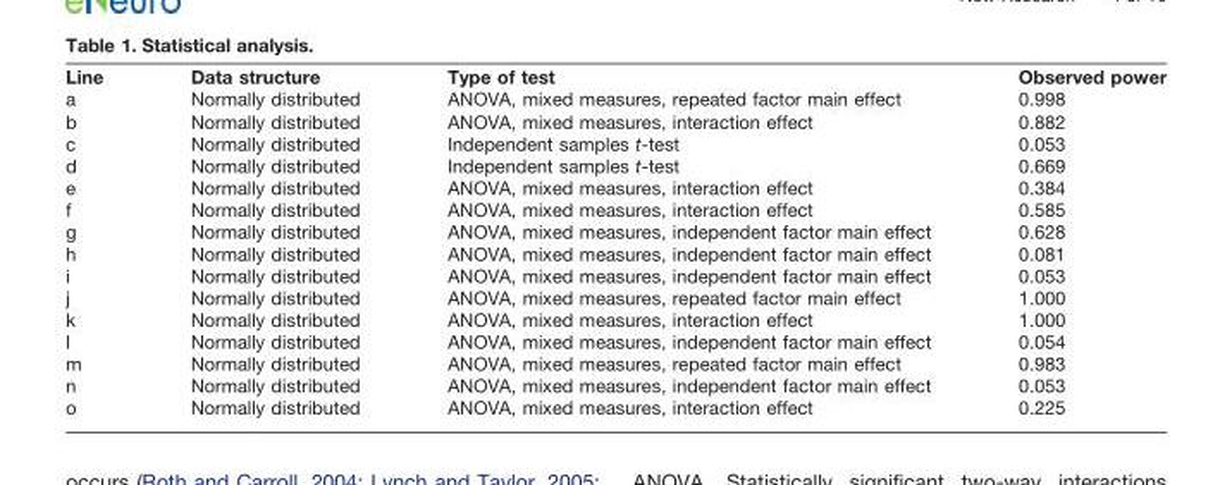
<table><thead><tr><td>Line</td><td>Data structure</td><td>Type of test</td><td>Observed power</td></tr></thead><tbody><tr><td>a</td><td>Normally distributed</td><td>ANOVA, mixed measures, repeated factor main effect</td><td>0.998</td></tr><tr><td>b</td><td>Normally distributed</td><td>ANOVA, mixed measures, interaction effect</td><td>0.882</td></tr><tr><td>c</td><td>Normally distributed</td><td>Independent samples t-test</td><td>0.053</td></tr><tr><td>d</td><td>Normally distributed</td><td>Independent samples t-test</td><td>0.669</td></tr><tr><td>e</td><td>Normally distributed</td><td>ANOVA, mixed measures, interaction effect</td><td>0.384</td></tr><tr><td>f</td><td>Normally distributed</td><td>ANOVA, mixed measures, interaction effect</td><td>0.585</td></tr><tr><td>g</td><td>Normally distributed</td><td>ANOVA, mixed measures, independent factor main effect</td><td>0.628</td></tr><tr><td>h</td><td>Normally distributed</td><td>ANOVA, mixed measures, independent factor main effect</td><td>0.081</td></tr><tr><td>i</td><td>Normally distributed</td><td>ANOVA, mixed measures, independent factor main effect</td><td>0.053</td></tr><tr><td>j</td><td>Normally distributed</td><td>ANOVA, mixed measures, repeated factor main effect</td><td>1.000</td></tr><tr><td>k</td><td>Normally distributed</td><td>ANOVA, mixed measures, interaction effect</td><td>1.000</td></tr><tr><td>l</td><td>Normally distributed</td><td>ANOVA, mixed measures, independent factor main effect</td><td>0.054</td></tr><tr><td>m</td><td>Normally distributed</td><td>ANOVA, mixed measures, repeated factor main effect</td><td>0.983</td></tr><tr><td>n</td><td>Normally distributed</td><td>ANOVA, mixed measures, independent factor main effect</td><td>0.053</td></tr><tr><td>o</td><td>Normally distributed</td><td>ANOVA, mixed measures, interaction effect</td><td>0.225</td></tr></tbody></table>